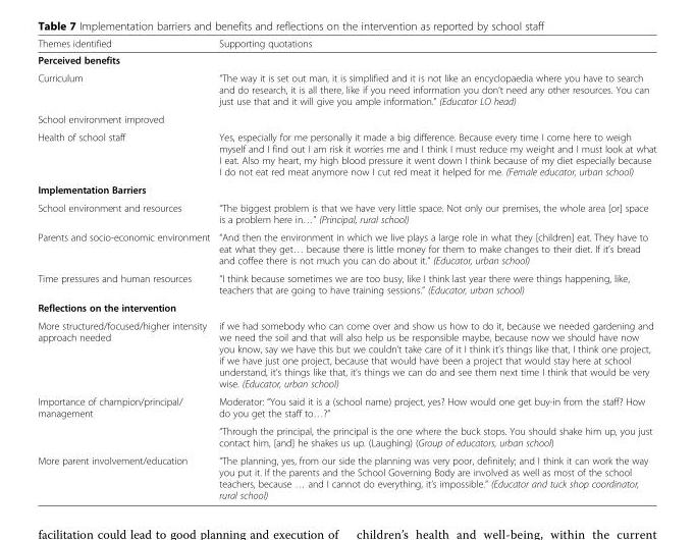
<table><thead><tr><td>Themes identified</td><td>Supporting quotations</td></tr></thead><tbody><tr><td colspan="2">Perceived benefits</td></tr><tr><td>Curriculum</td><td>“The way it is set out man, it is simplified and it is not like an encyclopaedia where you have to search and do research, it is all there, like if you need information you don’t need any other resources. You can just use that and it will give you ample information.” (Educator LO head)</td></tr><tr><td colspan="2">School environment improved</td></tr><tr><td>Health of school staff</td><td>Yes, especially for me personally it made a big difference. Because every time I come here to weigh myself and I find out I am risk it worries me and I think I must reduce my weight and I must look at what I eat. Also my heart, my high blood pressure it went down I think because of my diet especially because I do not eat red meat anymore now I cut red meat it helped for me. (Female educator, urban school)</td></tr><tr><td colspan="2">Implementation Barriers</td></tr><tr><td>School environment and resources</td><td>“The biggest problem is that we have very little space. Not only our premises, the whole area [or] space is a problem here in…” (Principal, rural school)</td></tr><tr><td>Parents and socio-economic environment</td><td>“And then the environment in which we live plays a large role in what they [children] eat. They have to eat what they get… because there is little money for them to make changes to their diet. If it’s bread and coffee there is not much you can do about it.” (Educator, urban school)</td></tr><tr><td>Time pressures and human resources</td><td>“I think because sometimes we are too busy, like I think last year there were things happening, like, teachers that are going to have training sessions.” (Educator, urban school)</td></tr><tr><td colspan="2">Reflections on the intervention</td></tr><tr><td>More structured/focused/higher intensity approach needed</td><td>if we had somebody who can come over and show us how to do it, because we needed gardening and we need the soil and that will also help us be responsible maybe, because now we should have now you know, say we have this but we couldn’t take care of it I think it’s things like that, I think one project, if we have just one project, because that would have been a project that would stay here at school understand, it’s things like that, it’s things we can do and see them next time I think that would be very wise. (Educator, urban school)</td></tr><tr><td rowspan="2">Importance of champion/principal/ management</td><td>Moderator: “You said it is a (school name) project, yes? How would one get buy-in from the staff? How do you get the staff to…?”</td></tr><tr><td>“Through the principal, the principal is the one where the buck stops. You should shake him up, you just contact him, [and] he shakes us up. (Laughing) (Group of educators, urban school)</td></tr><tr><td>More parent involvement/education</td><td>“The planning, yes, from our side the planning was very poor, definitely; and I think it can work the way you put it. If the parents and the School Governing Body are involved as well as most of the school teachers, because … and I cannot do everything, it’s impossible.” (Educator and tuck shop coordinator, rural school)</td></tr></tbody></table>